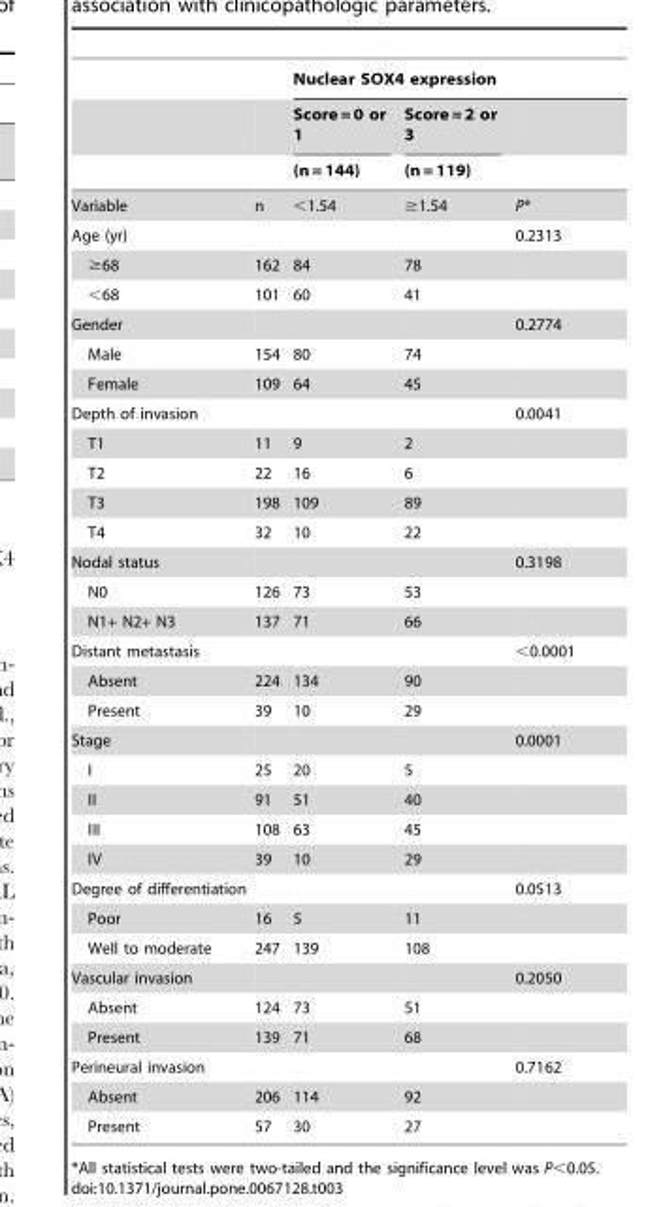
<table><thead><tr><td rowspan="3"></td><td rowspan="3"></td><td colspan="3">Nuclear SOX4 expression</td></tr><tr><td rowspan="2">Score = 0 or 1 (n = 144)</td><td rowspan="2">Score = 2 or 3 (n = 119)</td><td rowspan="2"></td></tr><tr></tr></thead><tbody><tr><td>Variable</td><td>n</td><td>&lt;1.54</td><td>≥1.54</td><td>P*</td></tr><tr><td>Age (yr)</td><td></td><td></td><td></td><td>0.2313</td></tr><tr><td>≥68</td><td>162</td><td>84</td><td>78</td><td></td></tr><tr><td>&lt;68</td><td>101</td><td>60</td><td>41</td><td></td></tr><tr><td>Gender</td><td></td><td></td><td></td><td>0.2774</td></tr><tr><td>Male</td><td>154</td><td>80</td><td>74</td><td></td></tr><tr><td>Female</td><td>109</td><td>64</td><td>45</td><td></td></tr><tr><td>Depth of invasion</td><td></td><td></td><td></td><td>0.0041</td></tr><tr><td>T1</td><td>11</td><td>9</td><td>2</td><td></td></tr><tr><td>T2</td><td>22</td><td>16</td><td>6</td><td></td></tr><tr><td>T3</td><td>198</td><td>109</td><td>89</td><td></td></tr><tr><td>T4</td><td>32</td><td>10</td><td>22</td><td></td></tr><tr><td>Nodal status</td><td></td><td></td><td></td><td>0.3198</td></tr><tr><td>N0</td><td>126</td><td>73</td><td>53</td><td></td></tr><tr><td>N1+ N2+ N3</td><td>137</td><td>71</td><td>66</td><td></td></tr><tr><td>Distant metastasis</td><td></td><td></td><td></td><td>&lt;0.0001</td></tr><tr><td>Absent</td><td>224</td><td>134</td><td>90</td><td></td></tr><tr><td>Present</td><td>39</td><td>10</td><td>29</td><td></td></tr><tr><td>Stage</td><td></td><td></td><td></td><td>0.0001</td></tr><tr><td>I</td><td>25</td><td>20</td><td>5</td><td></td></tr><tr><td>II</td><td>91</td><td>51</td><td>40</td><td></td></tr><tr><td>III</td><td>108</td><td>63</td><td>45</td><td></td></tr><tr><td>IV</td><td>39</td><td>10</td><td>29</td><td></td></tr><tr><td>Degree of differentiation</td><td></td><td></td><td></td><td>0.0513</td></tr><tr><td>Poor</td><td>16</td><td>5</td><td>11</td><td></td></tr><tr><td>Well to moderate</td><td>247</td><td>139</td><td>108</td><td></td></tr><tr><td>Vascular invasion</td><td></td><td></td><td></td><td>0.2050</td></tr><tr><td>Absent</td><td>124</td><td>73</td><td>51</td><td></td></tr><tr><td>Present</td><td>139</td><td>71</td><td>68</td><td></td></tr><tr><td>Perineural invasion</td><td></td><td></td><td></td><td>0.7162</td></tr><tr><td>Absent</td><td>206</td><td>114</td><td>92</td><td></td></tr><tr><td>Present</td><td>57</td><td>30</td><td>27</td><td></td></tr></tbody></table>